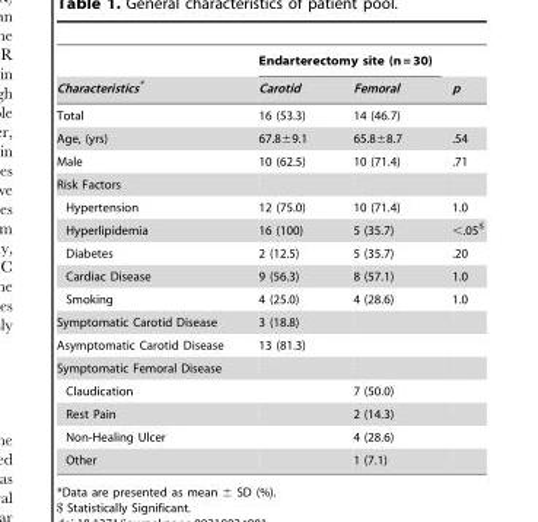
<table><thead><tr><td rowspan="2">Characteristics*</td><td colspan="2">Endarterectomy site (n = 30)</td><td rowspan="2">p</td></tr><tr><td>Carotid</td><td>Femoral</td></tr></thead><tbody><tr><td>Total</td><td>16 (53.3)</td><td>14 (46.7)</td><td></td></tr><tr><td>Age, (yrs)</td><td>67.8±9.1</td><td>65.8±8.7</td><td>.54</td></tr><tr><td>Male</td><td>10 (62.5)</td><td>10 (71.4)</td><td>.71</td></tr><tr><td colspan="4">Risk Factors</td></tr><tr><td>Hypertension</td><td>12 (75.0)</td><td>10 (71.4)</td><td>1.0</td></tr><tr><td>Hyperlipidemia</td><td>16 (100)</td><td>5 (35.7)</td><td>&lt;.05<sup>$</sup></td></tr><tr><td>Diabetes</td><td>2 (12.5)</td><td>5 (35.7)</td><td>.20</td></tr><tr><td>Cardiac Disease</td><td>9 (56.3)</td><td>8 (57.1)</td><td>1.0</td></tr><tr><td>Smoking</td><td>4 (25.0)</td><td>4 (28.6)</td><td>1.0</td></tr><tr><td>Symptomatic Carotid Disease</td><td>3 (18.8)</td><td></td><td></td></tr><tr><td>Asymptomatic Carotid Disease</td><td>13 (81.3)</td><td></td><td></td></tr><tr><td colspan="4">Symptomatic Femoral Disease</td></tr><tr><td>Claudication</td><td></td><td>7 (50.0)</td><td></td></tr><tr><td>Rest Pain</td><td></td><td>2 (14.3)</td><td></td></tr><tr><td>Non-Healing Ulcer</td><td></td><td>4 (28.6)</td><td></td></tr><tr><td>Other</td><td></td><td>1 (7.1)</td><td></td></tr></tbody></table>